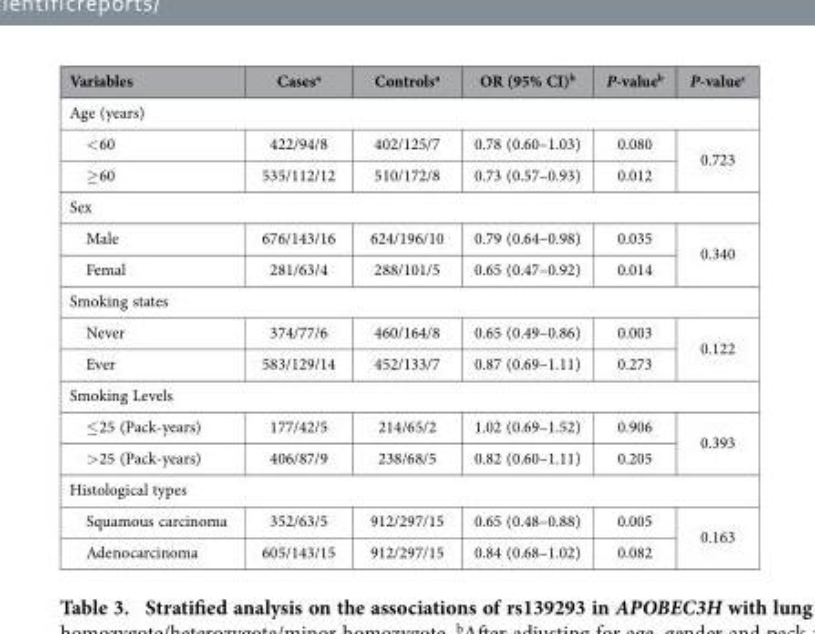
<table><thead><tr><td>Variables</td><td>Cases<sup>a</sup></td><td>Controls<sup>a</sup></td><td>OR (95% CI)<sup>b</sup></td><td>P-value<sup>b</sup></td><td>P-value<sup>c</sup></td></tr></thead><tbody><tr><td colspan="6">Age (years)</td></tr><tr><td>&lt; 60</td><td>422/94/8</td><td>402/125/7</td><td>0.78 (0.60–1.03)</td><td>0.080</td><td rowspan="2">0.723</td></tr><tr><td>≥ 60</td><td>535/112/12</td><td>510/172/8</td><td>0.73 (0.57–0.93)</td><td>0.012</td></tr><tr><td colspan="6">Sex</td></tr><tr><td>Male</td><td>676/143/16</td><td>624/196/10</td><td>0.79 (0.64–0.98)</td><td>0.035</td><td rowspan="2">0.340</td></tr><tr><td>Femal</td><td>281/63/4</td><td>288/101/5</td><td>0.65 (0.47–0.92)</td><td>0.014</td></tr><tr><td colspan="6">Smoking states</td></tr><tr><td>Never</td><td>374/77/6</td><td>460/164/8</td><td>0.65 (0.49–0.86)</td><td>0.003</td><td rowspan="2">0.122</td></tr><tr><td>Ever</td><td>583/129/14</td><td>452/133/7</td><td>0.87 (0.69–1.11)</td><td>0.273</td></tr><tr><td colspan="6">Smoking Levels</td></tr><tr><td>≤ 25 (Pack-years)</td><td>177/42/5</td><td>214/65/2</td><td>1.02 (0.69–1.52)</td><td>0.906</td><td rowspan="2">0.393</td></tr><tr><td>&gt; 25 (Pack-years)</td><td>406/87/9</td><td>238/68/5</td><td>0.82 (0.60–1.11)</td><td>0.205</td></tr><tr><td colspan="6">Histological types</td></tr><tr><td>Squamous carcinoma</td><td>352/63/5</td><td>912/297/15</td><td>0.65 (0.48–0.88)</td><td>0.005</td><td rowspan="2">0.163</td></tr><tr><td>Adenocarcinoma</td><td>605/143/15</td><td>912/297/15</td><td>0.84 (0.68–1.02)</td><td>0.082</td></tr></tbody></table>